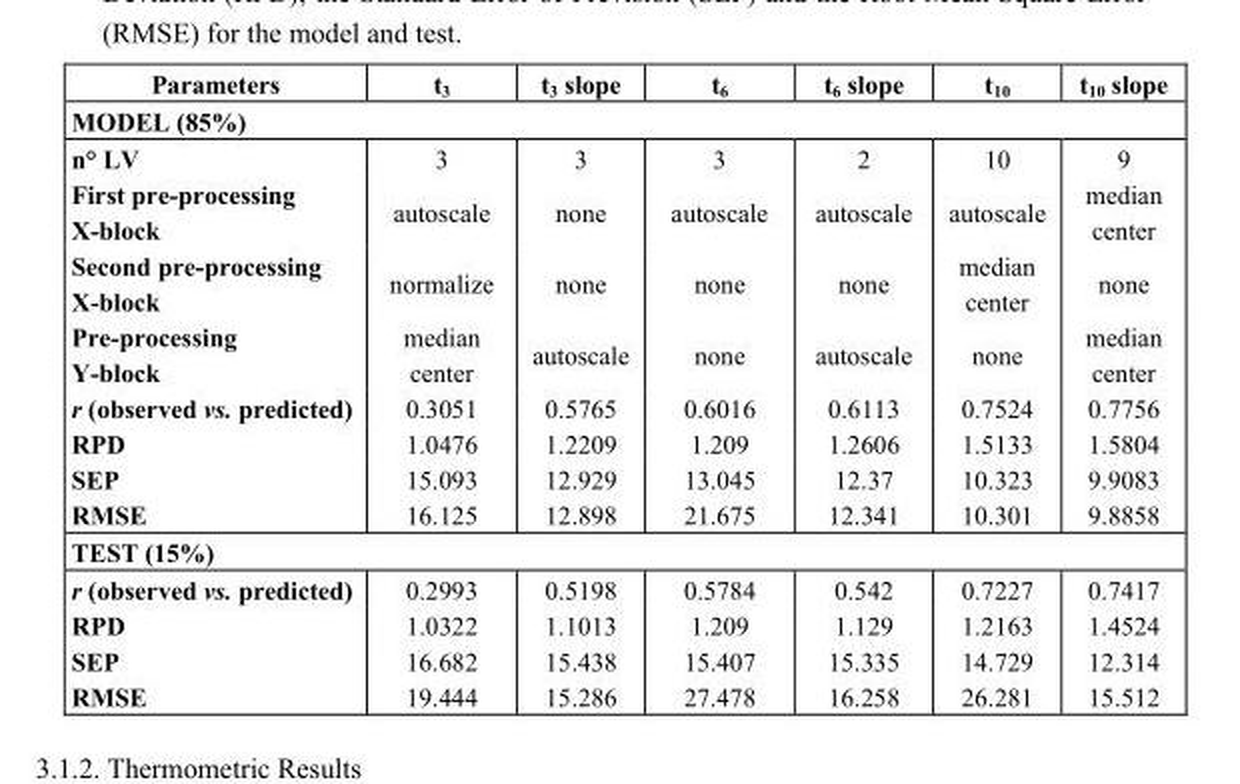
<table><thead><tr><td>Parameters</td><td>t<sub>3</sub></td><td>t<sub>3</sub> slope</td><td>t<sub>6</sub></td><td>t<sub>6</sub> slope</td><td>t<sub>10</sub></td><td>t<sub>10</sub> slope</td></tr></thead><tbody><tr><td colspan="7">MODEL (85%)</td></tr><tr><td>n° LV</td><td>3</td><td>3</td><td>3</td><td>2</td><td>10</td><td>9</td></tr><tr><td>First pre-processing X-block</td><td>autoscale</td><td>none</td><td>autoscale</td><td>autoscale</td><td>autoscale</td><td>median center</td></tr><tr><td>Second pre-processing X-block</td><td>normalize</td><td>none</td><td>none</td><td>none</td><td>median center</td><td>none</td></tr><tr><td>Pre-processing Y-block</td><td>median center</td><td>autoscale</td><td>none</td><td>autoscale</td><td>none</td><td>median center</td></tr><tr><td>r (observed vs. predicted)</td><td>0.3051</td><td>0.5765</td><td>0.6016</td><td>0.6113</td><td>0.7524</td><td>0.7756</td></tr><tr><td>RPD</td><td>1.0476</td><td>1.2209</td><td>1.209</td><td>1.2606</td><td>1.5133</td><td>1.5804</td></tr><tr><td>SEP</td><td>15.093</td><td>12.929</td><td>13.045</td><td>12.37</td><td>10.323</td><td>9.9083</td></tr><tr><td>RMSE</td><td>16.125</td><td>12.898</td><td>21.675</td><td>12.341</td><td>10.301</td><td>9.8858</td></tr><tr><td colspan="7">TEST (15%)</td></tr><tr><td>r (observed vs. predicted)</td><td>0.2993</td><td>0.5198</td><td>0.5784</td><td>0.542</td><td>0.7227</td><td>0.7417</td></tr><tr><td>RPD</td><td>1.0322</td><td>1.1013</td><td>1.209</td><td>1.129</td><td>1.2163</td><td>1.4524</td></tr><tr><td>SEP</td><td>16.682</td><td>15.438</td><td>15.407</td><td>15.335</td><td>14.729</td><td>12.314</td></tr><tr><td>RMSE</td><td>19.444</td><td>15.286</td><td>27.478</td><td>16.258</td><td>26.281</td><td>15.512</td></tr></tbody></table>